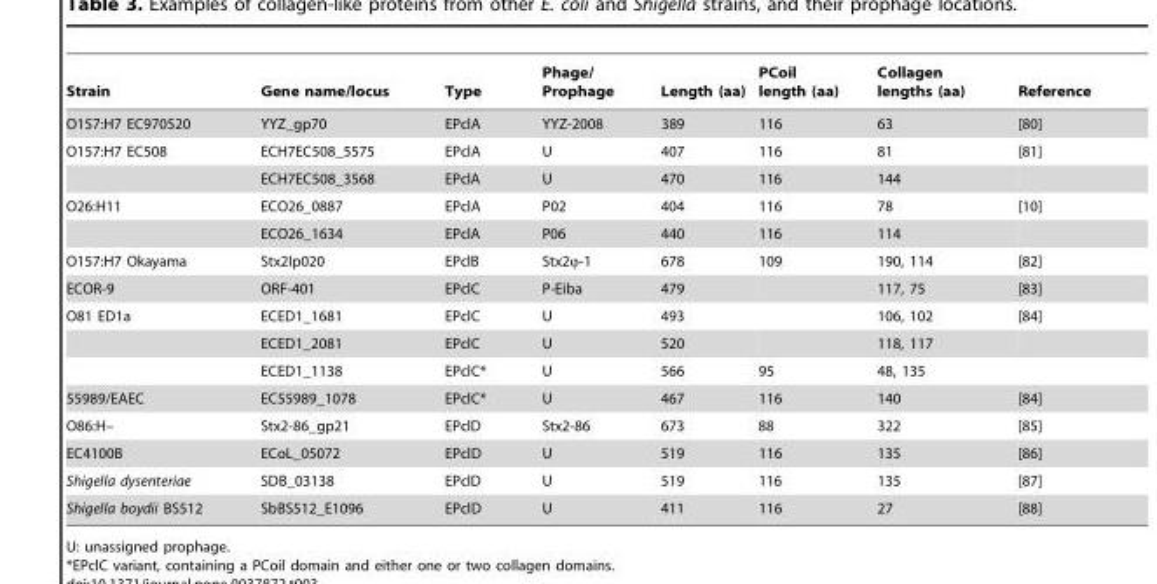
<table><thead><tr><td>Strain</td><td>Gene name/locus</td><td>Type</td><td>Phage/ Prophage</td><td>Length (aa)</td><td>PCoil length (aa)</td><td>Collagen lengths (aa)</td><td>Reference</td></tr></thead><tbody><tr><td>O157:H7 EC970520</td><td>YYZ_gp70</td><td>EPclA</td><td>YYZ-2008</td><td>389</td><td>116</td><td>63</td><td>[80]</td></tr><tr><td rowspan="2">O157:H7 EC508</td><td>ECH7EC508_5575</td><td>EPclA</td><td>U</td><td>407</td><td>116</td><td>81</td><td>[81]</td></tr><tr><td>ECH7EC508_3568</td><td>EPclA</td><td>U</td><td>470</td><td>116</td><td>144</td><td></td></tr><tr><td rowspan="2">O26:H11</td><td>ECO26_0887</td><td>EPclA</td><td>P02</td><td>404</td><td>116</td><td>78</td><td>[10]</td></tr><tr><td>ECO26_1634</td><td>EPclA</td><td>P06</td><td>440</td><td>116</td><td>114</td><td></td></tr><tr><td>O157:H7 Okayama</td><td>Stx2Ip020</td><td>EPclB</td><td>Stx2ϕ-1</td><td>678</td><td>109</td><td>190, 114</td><td>[82]</td></tr><tr><td>ECOR-9</td><td>ORF-401</td><td>EPclC</td><td>P-Eiba</td><td>479</td><td></td><td>117, 75</td><td>[83]</td></tr><tr><td rowspan="3">O81 ED1a</td><td>ECED1_1681</td><td>EPclC</td><td>U</td><td>493</td><td></td><td>106, 102</td><td>[84]</td></tr><tr><td>ECED1_2081</td><td>EPclC</td><td>U</td><td>520</td><td></td><td>118, 117</td><td></td></tr><tr><td>ECED1_1138</td><td>EPclC*</td><td>U</td><td>566</td><td>95</td><td>48, 135</td><td></td></tr><tr><td>55989/EAEC</td><td>EC55989_1078</td><td>EPclC*</td><td>U</td><td>467</td><td>116</td><td>140</td><td>[84]</td></tr><tr><td>O86:H–</td><td>Stx2-86_gp21</td><td>EPclD</td><td>Stx2-86</td><td>673</td><td>88</td><td>322</td><td>[85]</td></tr><tr><td>EC4100B</td><td>ECoL_05072</td><td>EPclD</td><td>U</td><td>519</td><td>116</td><td>135</td><td>[86]</td></tr><tr><td>Shigella dysenteriae</td><td>SDB_03138</td><td>EPclD</td><td>U</td><td>519</td><td>116</td><td>135</td><td>[87]</td></tr><tr><td>Shigella boydii BS512</td><td>SbBS512_E1096</td><td>EPclD</td><td>U</td><td>411</td><td>116</td><td>27</td><td>[88]</td></tr></tbody></table>